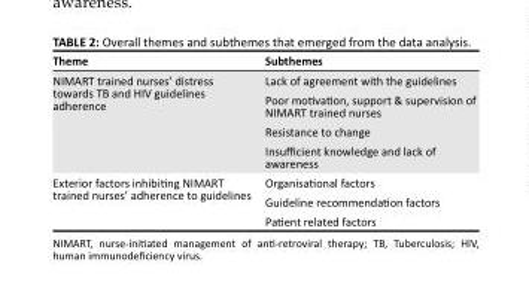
<table><thead><tr><td>Theme</td><td>Subthemes</td></tr></thead><tbody><tr><td rowspan="4">NIMART trained nurses’ distress towards TB and HIV guidelines adherence</td><td>Lack of agreement with the guidelines</td></tr><tr><td>Poor motivation, support &amp; supervision of NIMART trained nurses</td></tr><tr><td>Resistance to change</td></tr><tr><td>Insufficient knowledge and lack of awareness</td></tr><tr><td rowspan="3">Exterior factors inhibiting NIMART trained nurses’ adherence to guidelines</td><td>Organisational factors</td></tr><tr><td>Guideline recommendation factors</td></tr><tr><td>Patient related factors</td></tr></tbody></table>